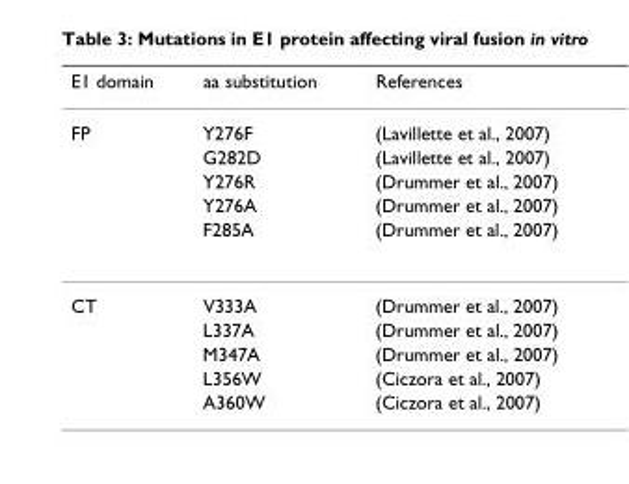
<table><thead><tr><td>E1 domain</td><td>aa substitution</td><td>References</td></tr></thead><tbody><tr><td rowspan="5">FP</td><td>Y276F</td><td>(Lavillette et al., 2007)</td></tr><tr><td>G282D</td><td>(Lavillette et al., 2007)</td></tr><tr><td>Y276R</td><td>(Drummer et al., 2007)</td></tr><tr><td>Y276A</td><td>(Drummer et al., 2007)</td></tr><tr><td>F285A</td><td>(Drummer et al., 2007)</td></tr><tr><td rowspan="5">CT</td><td>V333A</td><td>(Drummer et al., 2007)</td></tr><tr><td>L337A</td><td>(Drummer et al., 2007)</td></tr><tr><td>M347A</td><td>(Drummer et al., 2007)</td></tr><tr><td>L356W</td><td>(Ciczora et al., 2007)</td></tr><tr><td>A360W</td><td>(Ciczora et al., 2007)</td></tr></tbody></table>